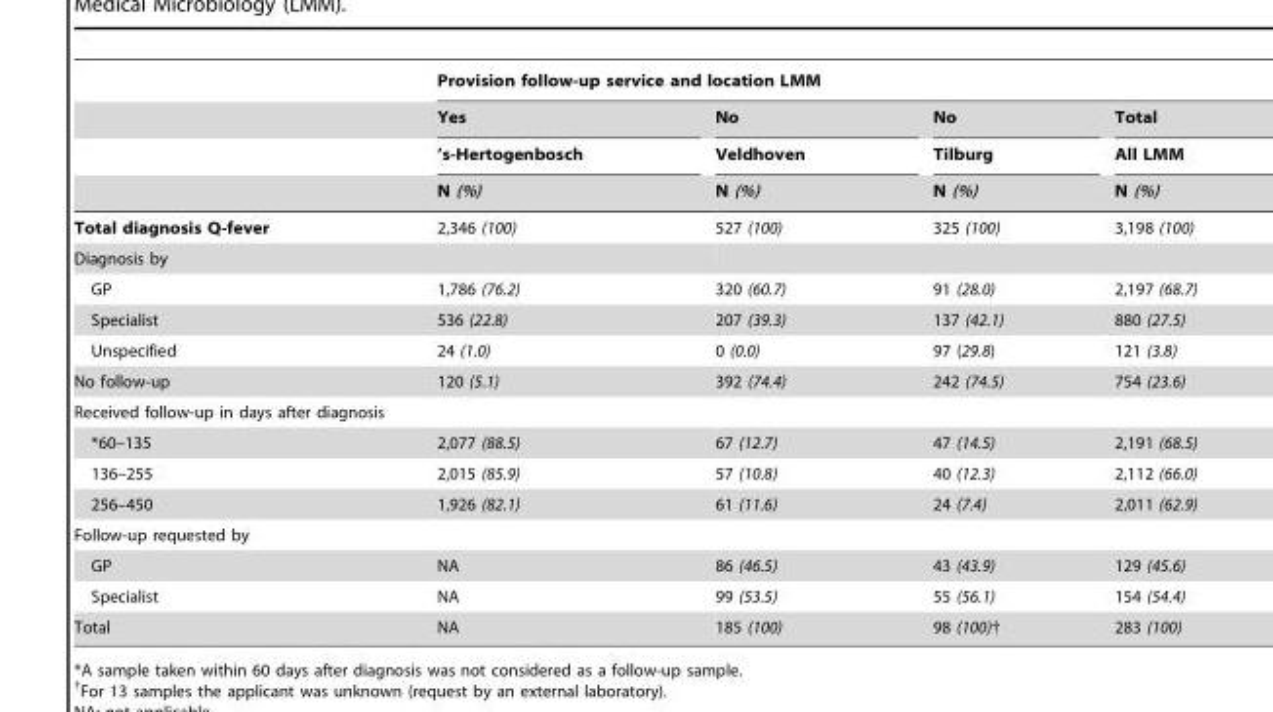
<table><thead><tr><td rowspan="4"></td><td colspan="4">Provision follow-up service and location LMM</td></tr><tr><td rowspan="3">Yes ’s-Hertogenbosch N (%)</td><td rowspan="3">No Veldhoven N (%)</td><td rowspan="3">No Tilburg N (%)</td><td rowspan="3">Total All LMM N (%)</td></tr><tr></tr><tr></tr></thead><tbody><tr><td>Total diagnosis Q-fever</td><td>2,346 (100)</td><td>527 (100)</td><td>325 (100)</td><td>3,198 (100)</td></tr><tr><td colspan="5">Diagnosis by</td></tr><tr><td>GP</td><td>1,786 (76.2)</td><td>320 (60.7)</td><td>91 (28.0)</td><td>2,197 (68.7)</td></tr><tr><td>Specialist</td><td>536 (22.8)</td><td>207 (39.3)</td><td>137 (42.1)</td><td>880 (27.5)</td></tr><tr><td>Unspecified</td><td>24 (1.0)</td><td>0 (0.0)</td><td>97 (29.8)</td><td>121 (3.8)</td></tr><tr><td>No follow-up</td><td>120 (5.1)</td><td>392 (74.4)</td><td>242 (74.5)</td><td>754 (23.6)</td></tr><tr><td colspan="5">Received follow-up in days after diagnosis</td></tr><tr><td>*60–135</td><td>2,077 (88.5)</td><td>67 (12.7)</td><td>47 (14.5)</td><td>2,191 (68.5)</td></tr><tr><td>136–255</td><td>2,015 (85.9)</td><td>57 (10.8)</td><td>40 (12.3)</td><td>2,112 (66.0)</td></tr><tr><td>256–450</td><td>1,926 (82.1)</td><td>61 (11.6)</td><td>24 (7.4)</td><td>2,011 (62.9)</td></tr><tr><td colspan="5">Follow-up requested by</td></tr><tr><td>GP</td><td>NA</td><td>86 (46.5)</td><td>43 (43.9)</td><td>129 (45.6)</td></tr><tr><td>Specialist</td><td>NA</td><td>99 (53.5)</td><td>55 (56.1)</td><td>154 (54.4)</td></tr><tr><td>Total</td><td>NA</td><td>185 (100)</td><td>98 (100)†</td><td>283 (100)</td></tr></tbody></table>